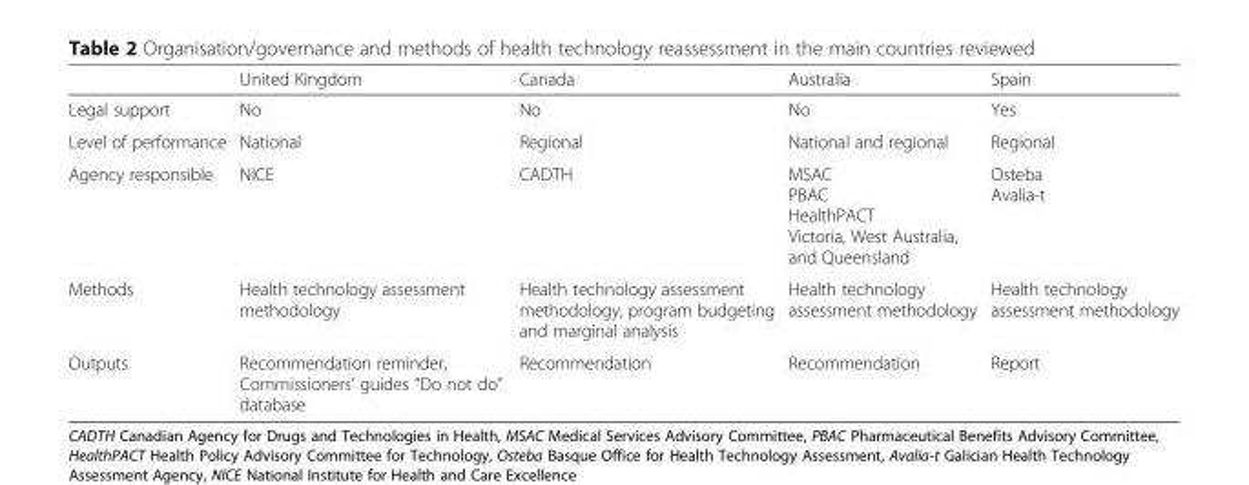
<table><thead><tr><td></td><td>United Kingdom</td><td>Canada</td><td>Australia</td><td>Spain</td></tr></thead><tbody><tr><td>Legal support</td><td>No</td><td>No</td><td>No</td><td>Yes</td></tr><tr><td>Level of performance</td><td>National</td><td>Regional</td><td>National and regional</td><td>Regional</td></tr><tr><td>Agency responsible</td><td>NICE</td><td>CADTH</td><td>MSAC PBAC HealthPACT Victoria, West Australia, and Queensland</td><td>Osteba Avalia-t</td></tr><tr><td>Methods</td><td>Health technology assessment methodology</td><td>Health technology assessment methodology, program budgeting and marginal analysis</td><td>Health technology assessment methodology</td><td>Health technology assessment methodology</td></tr><tr><td>Outputs</td><td>Recommendation reminder, Commissioners’ guides “Do not do” database</td><td>Recommendation</td><td>Recommendation</td><td>Report</td></tr></tbody></table>